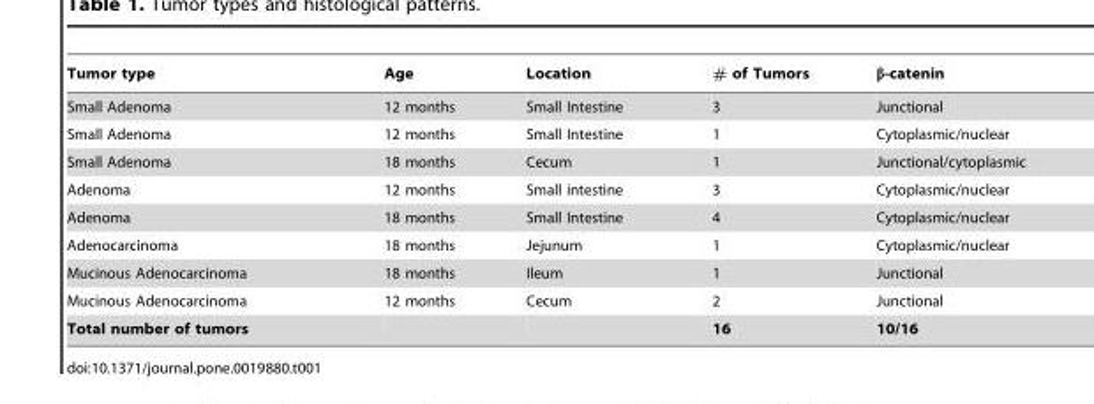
<table><thead><tr><td>Tumor type</td><td>Age</td><td>Location</td><td># of Tumors</td><td>β-catenin</td></tr></thead><tbody><tr><td>Small Adenoma</td><td>12 months</td><td>Small Intestine</td><td>3</td><td>Junctional</td></tr><tr><td>Small Adenoma</td><td>12 months</td><td>Small Intestine</td><td>1</td><td>Cytoplasmic/nuclear</td></tr><tr><td>Small Adenoma</td><td>18 months</td><td>Cecum</td><td>1</td><td>Junctional/cytoplasmic</td></tr><tr><td>Adenoma</td><td>12 months</td><td>Small intestine</td><td>3</td><td>Cytoplasmic/nuclear</td></tr><tr><td>Adenoma</td><td>18 months</td><td>Small Intestine</td><td>4</td><td>Cytoplasmic/nuclear</td></tr><tr><td>Adenocarcinoma</td><td>18 months</td><td>Jejunum</td><td>1</td><td>Cytoplasmic/nuclear</td></tr><tr><td>Mucinous Adenocarcinoma</td><td>18 months</td><td>Ileum</td><td>1</td><td>Junctional</td></tr><tr><td>Mucinous Adenocarcinoma</td><td>12 months</td><td>Cecum</td><td>2</td><td>Junctional</td></tr><tr><td>Total number of tumors</td><td></td><td></td><td>16</td><td>10/16</td></tr></tbody></table>